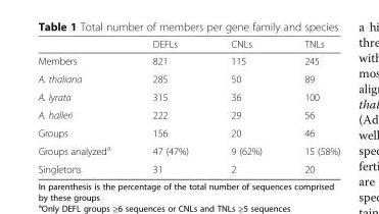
<table><thead><tr><td></td><td>DEFLs</td><td>CNLs</td><td>TNLs</td></tr></thead><tbody><tr><td>Members</td><td>821</td><td>115</td><td>245</td></tr><tr><td>A. thaliana</td><td>285</td><td>50</td><td>89</td></tr><tr><td>A. lyrata</td><td>315</td><td>36</td><td>100</td></tr><tr><td>A. halleri</td><td>222</td><td>29</td><td>56</td></tr><tr><td>Groups</td><td>156</td><td>20</td><td>46</td></tr><tr><td>Groups analyzed<sup>a</sup></td><td>47 (47%)</td><td>9 (62%)</td><td>15 (58%)</td></tr><tr><td>Singletons</td><td>31</td><td>2</td><td>20</td></tr></tbody></table>